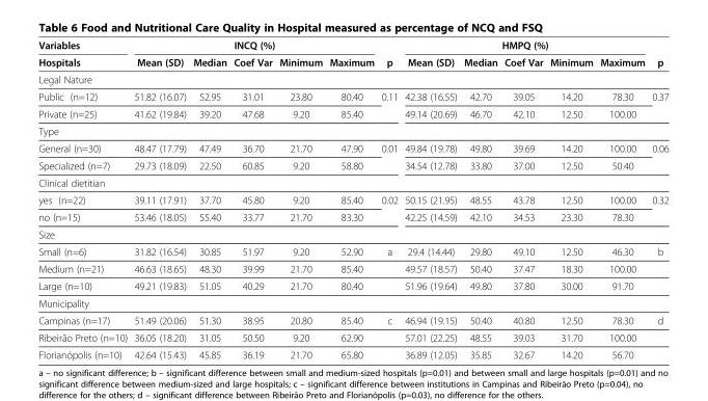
<table><thead><tr><td rowspan="2">Variables Hospitals</td><td colspan="5">INCQ (%)</td><td rowspan="2">p</td><td colspan="5">HMPQ (%)</td><td rowspan="2">p</td></tr><tr><td>Mean (SD)</td><td>Median</td><td>Coef Var</td><td>Minimum</td><td>Maximum</td><td>Mean (SD)</td><td>Median</td><td>Coef Var</td><td>Minimum</td><td>Maximum</td></tr></thead><tbody><tr><td colspan="13">Legal Nature</td></tr><tr><td>Public (n=12)</td><td>51.82 (16.07)</td><td>52.95</td><td>31.01</td><td>23.80</td><td>80.40</td><td rowspan="2">0.11</td><td>42.38 (16.55)</td><td>42.70</td><td>39.05</td><td>14.20</td><td>78.30</td><td rowspan="2">0.37</td></tr><tr><td>Private (n=25)</td><td>41.62 (19.84)</td><td>39.20</td><td>47.68</td><td>9.20</td><td>85.40</td><td>49.14 (20.69)</td><td>46.70</td><td>42.10</td><td>12.50</td><td>100.00</td></tr><tr><td colspan="13">Type</td></tr><tr><td>General (n=30)</td><td>48.47 (17.79)</td><td>47.49</td><td>36.70</td><td>21.70</td><td>47.90</td><td rowspan="2">0.01</td><td>49.84 (19.78)</td><td>49.80</td><td>39.69</td><td>14.20</td><td>100.00</td><td rowspan="2">0.06</td></tr><tr><td>Specialized (n=7)</td><td>29.73 (18.09)</td><td>22.50</td><td>60.85</td><td>9.20</td><td>58.80</td><td>34.54 (12.78)</td><td>33.80</td><td>37.00</td><td>12.50</td><td>50.40</td></tr><tr><td colspan="13">Clinical dietitian</td></tr><tr><td>yes (n=22)</td><td>39.11 (17.91)</td><td>37.70</td><td>45.80</td><td>9.20</td><td>85.40</td><td rowspan="2">0.02</td><td>50.15 (21.95)</td><td>48.55</td><td>43.78</td><td>12.50</td><td>100.00</td><td rowspan="2">0.32</td></tr><tr><td>no (n=15)</td><td>53.46 (18.05)</td><td>55.40</td><td>33.77</td><td>21.70</td><td>83.30</td><td>42.25 (14.59)</td><td>42.10</td><td>34.53</td><td>23.30</td><td>78.30</td></tr><tr><td colspan="13">Size</td></tr><tr><td>Small (n=6)</td><td>31.82 (16.54)</td><td>30.85</td><td>51.97</td><td>9.20</td><td>52.90</td><td>a</td><td>29.4 (14.44)</td><td>29.80</td><td>49.10</td><td>12.50</td><td>46.30</td><td>b</td></tr><tr><td>Medium (n=21)</td><td>46.63 (18.65)</td><td>48.30</td><td>39.99</td><td>21.70</td><td>85.40</td><td></td><td>49.57 (18.57)</td><td>50.40</td><td>37.47</td><td>18.30</td><td>100.00</td><td></td></tr><tr><td>Large (n=10)</td><td>49.21 (19.83)</td><td>51.05</td><td>40.29</td><td>21.70</td><td>80.40</td><td></td><td>51.96 (19.64)</td><td>49.80</td><td>37.80</td><td>30.00</td><td>91.70</td><td></td></tr><tr><td colspan="13">Municipality</td></tr><tr><td>Campinas (n=17)</td><td>51.49 (20.06)</td><td>51.30</td><td>38.95</td><td>20.80</td><td>85.40</td><td>c</td><td>46.94 (19.15)</td><td>50.40</td><td>40.80</td><td>12.50</td><td>78.30</td><td>d</td></tr><tr><td>Ribeirão Preto (n=10)</td><td>36.05 (18.20)</td><td>31.05</td><td>50.50</td><td>9.20</td><td>62.90</td><td></td><td>57.01 (22.25)</td><td>48.55</td><td>39.03</td><td>31.70</td><td>100.00</td><td></td></tr><tr><td>Florianópolis (n=10)</td><td>42.64 (15.43)</td><td>45.85</td><td>36.19</td><td>21.70</td><td>65.80</td><td></td><td>36.89 (12.05)</td><td>35.85</td><td>32.67</td><td>14.20</td><td>56.70</td><td></td></tr></tbody></table>